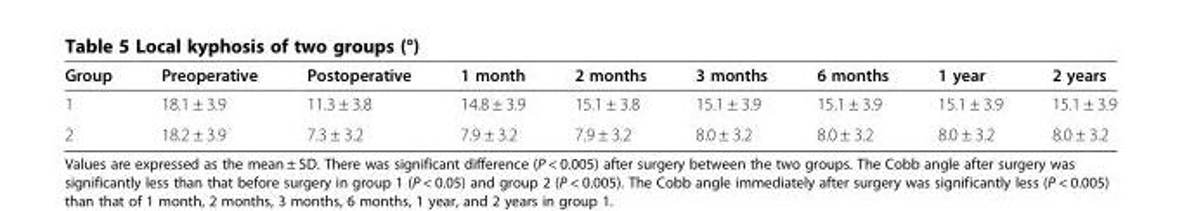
<table><thead><tr><td>Group</td><td>Preoperative</td><td>Postoperative</td><td>1 month</td><td>2 months</td><td>3 months</td><td>6 months</td><td>1 year</td><td>2 years</td></tr></thead><tbody><tr><td>1</td><td>18.1 ± 3.9</td><td>11.3 ± 3.8</td><td>14.8 ± 3.9</td><td>15.1 ± 3.8</td><td>15.1 ± 3.9</td><td>15.1 ± 3.9</td><td>15.1 ± 3.9</td><td>15.1 ± 3.9</td></tr><tr><td>2</td><td>18.2 ± 3.9</td><td>7.3 ± 3.2</td><td>7.9 ± 3.2</td><td>7.9 ± 3.2</td><td>8.0 ± 3.2</td><td>8.0 ± 3.2</td><td>8.0 ± 3.2</td><td>8.0 ± 3.2</td></tr></tbody></table>